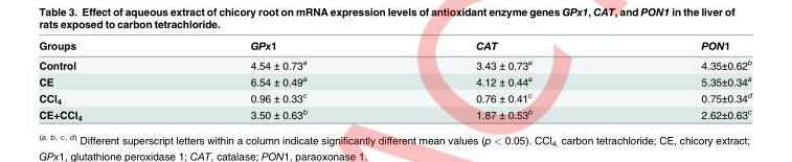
<table><thead><tr><td>Groups</td><td>GPx1</td><td>CAT</td><td>PON1</td></tr></thead><tbody><tr><td>Control</td><td>4.54 ± 0.73a</td><td>3.43 ± 0.73a</td><td>4.35±0.62b</td></tr><tr><td>CE</td><td>6.54 ± 0.49a</td><td>4.12 ± 0.44a</td><td>5.35±0.34a</td></tr><tr><td>CCl4</td><td>0.96 ± 0.33c</td><td>0.76 ± 0.41c</td><td>0.75±0.34d</td></tr><tr><td>CE+CCl4</td><td>3.50 ± 0.63b</td><td>1.87 ± 0.53b</td><td>2.62±0.63c</td></tr></tbody></table>